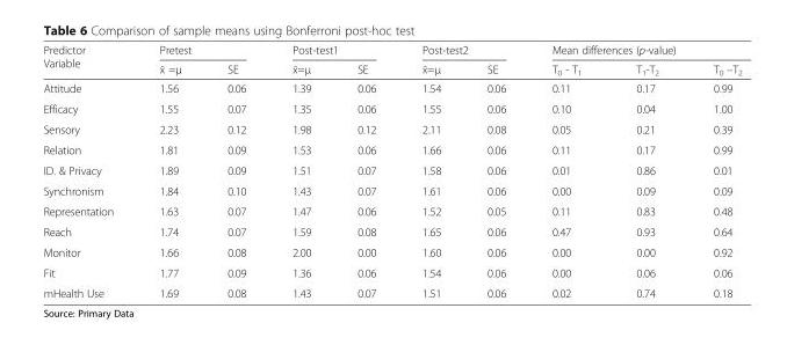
<table><thead><tr><td rowspan="2">Predictor Variable</td><td colspan="2">Pretest</td><td colspan="2">Post-test1</td><td colspan="2">Post-test2</td><td colspan="3">Mean differences (p-value)</td></tr><tr><td>x̄ =μ</td><td>SE</td><td>x̄=μ</td><td>SE</td><td>x̄=μ</td><td>SE</td><td>T<sub>0</sub> - T<sub>1</sub></td><td>T<sub>1</sub>-T<sub>2</sub></td><td>T<sub>0</sub> –T<sub>2</sub></td></tr></thead><tbody><tr><td>Attitude</td><td>1.56</td><td>0.06</td><td>1.39</td><td>0.06</td><td>1.54</td><td>0.06</td><td>0.11</td><td>0.17</td><td>0.99</td></tr><tr><td>Efficacy</td><td>1.55</td><td>0.07</td><td>1.35</td><td>0.06</td><td>1.55</td><td>0.06</td><td>0.10</td><td>0.04</td><td>1.00</td></tr><tr><td>Sensory</td><td>2.23</td><td>0.12</td><td>1.98</td><td>0.12</td><td>2.11</td><td>0.08</td><td>0.05</td><td>0.21</td><td>0.39</td></tr><tr><td>Relation</td><td>1.81</td><td>0.09</td><td>1.53</td><td>0.06</td><td>1.66</td><td>0.06</td><td>0.11</td><td>0.17</td><td>0.99</td></tr><tr><td>ID. &amp; Privacy</td><td>1.89</td><td>0.09</td><td>1.51</td><td>0.07</td><td>1.58</td><td>0.06</td><td>0.01</td><td>0.86</td><td>0.01</td></tr><tr><td>Synchronism</td><td>1.84</td><td>0.10</td><td>1.43</td><td>0.07</td><td>1.61</td><td>0.06</td><td>0.00</td><td>0.09</td><td>0.09</td></tr><tr><td>Representation</td><td>1.63</td><td>0.07</td><td>1.47</td><td>0.06</td><td>1.52</td><td>0.05</td><td>0.11</td><td>0.83</td><td>0.48</td></tr><tr><td>Reach</td><td>1.74</td><td>0.07</td><td>1.59</td><td>0.08</td><td>1.65</td><td>0.06</td><td>0.47</td><td>0.93</td><td>0.64</td></tr><tr><td>Monitor</td><td>1.66</td><td>0.08</td><td>2.00</td><td>0.00</td><td>1.60</td><td>0.06</td><td>0.00</td><td>0.00</td><td>0.92</td></tr><tr><td>Fit</td><td>1.77</td><td>0.09</td><td>1.36</td><td>0.06</td><td>1.54</td><td>0.06</td><td>0.00</td><td>0.06</td><td>0.06</td></tr><tr><td>mHealth Use</td><td>1.69</td><td>0.08</td><td>1.43</td><td>0.07</td><td>1.51</td><td>0.06</td><td>0.02</td><td>0.74</td><td>0.18</td></tr></tbody></table>